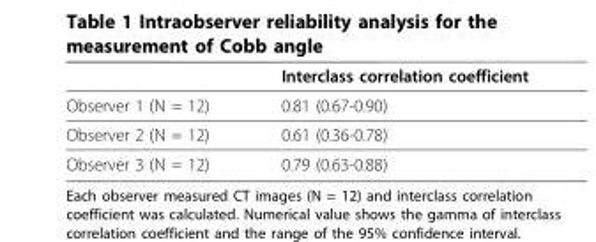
<table><thead><tr><td></td><td>Interclass correlation coefficient</td></tr></thead><tbody><tr><td>Observer 1 (N = 12)</td><td>0.81 (0.67-0.90)</td></tr><tr><td>Observer 2 (N = 12)</td><td>0.61 (0.36-0.78)</td></tr><tr><td>Observer 3 (N = 12)</td><td>0.79 (0.63-0.88)</td></tr></tbody></table>